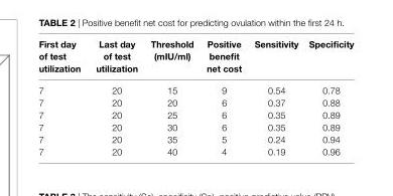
<table><thead><tr><td>First day of test utilization</td><td>last day of test utilization</td><td>Threshold (miU/ml)</td><td>Positive benefit net cost</td><td>sensitivity</td><td>specificity</td></tr></thead><tbody><tr><td>7</td><td>20</td><td>15</td><td>9</td><td>0.54</td><td>0.78</td></tr><tr><td>7</td><td>20</td><td>20</td><td>6</td><td>0.37</td><td>0.88</td></tr><tr><td>7</td><td>20</td><td>25</td><td>6</td><td>0.35</td><td>0.89</td></tr><tr><td>7</td><td>20</td><td>30</td><td>6</td><td>0.35</td><td>0.89</td></tr><tr><td>7</td><td>20</td><td>35</td><td>5</td><td>0.24</td><td>0.94</td></tr><tr><td>7</td><td>20</td><td>40</td><td>4</td><td>0.19</td><td>0.96</td></tr></tbody></table>